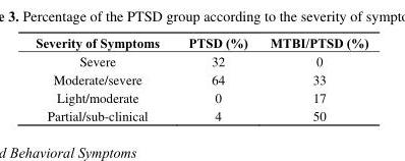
<table><thead><tr><td>Severity of Symptoms</td><td>PTSD (%)</td><td>MTBI/PTSD (%)</td></tr></thead><tbody><tr><td>Severe</td><td>32</td><td>0</td></tr><tr><td>Moderate/severe</td><td>64</td><td>33</td></tr><tr><td>Light/moderate</td><td>0</td><td>17</td></tr><tr><td>Partial/sub-clinical</td><td>4</td><td>50</td></tr></tbody></table>